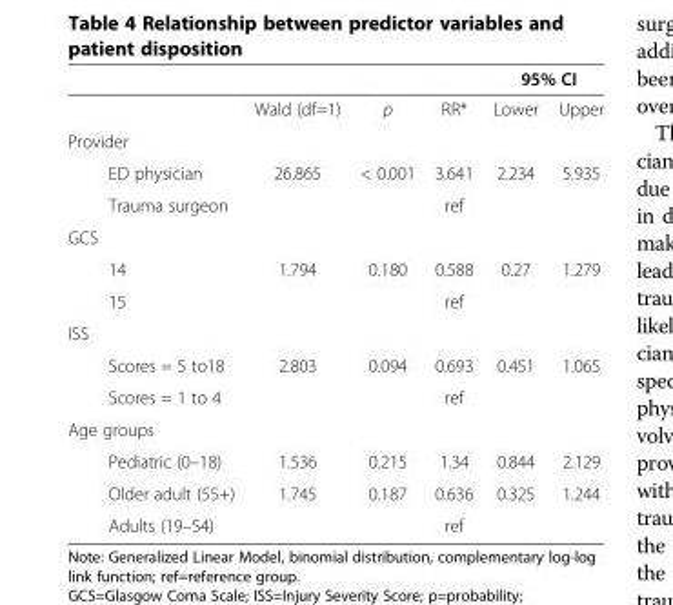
<table><thead><tr><td rowspan="2"></td><td rowspan="2"></td><td rowspan="2">Wald (df=1)</td><td rowspan="2">p</td><td rowspan="2">RR*</td><td colspan="2">95% CI</td></tr><tr><td>Lower</td><td>Upper</td></tr></thead><tbody><tr><td colspan="7">Provider</td></tr><tr><td></td><td>ED physician</td><td>26.865</td><td>&lt; 0.001</td><td>3.641</td><td>2.234</td><td>5.935</td></tr><tr><td></td><td>Trauma surgeon</td><td></td><td></td><td>ref</td><td></td><td></td></tr><tr><td colspan="7">GCS</td></tr><tr><td></td><td>14</td><td>1.794</td><td>0.180</td><td>0.588</td><td>0.27</td><td>1.279</td></tr><tr><td></td><td>15</td><td></td><td></td><td>ref</td><td></td><td></td></tr><tr><td colspan="7">ISS</td></tr><tr><td></td><td>Scores = 5 to18</td><td>2.803</td><td>0.094</td><td>0.693</td><td>0.451</td><td>1.065</td></tr><tr><td></td><td>Scores = 1 to 4</td><td></td><td></td><td>ref</td><td></td><td></td></tr><tr><td colspan="7">Age groups</td></tr><tr><td></td><td>Pediatric (0–18)</td><td>1.536</td><td>0.215</td><td>1.34</td><td>0.844</td><td>2.129</td></tr><tr><td></td><td>Older adult (55+)</td><td>1.745</td><td>0.187</td><td>0.636</td><td>0.325</td><td>1.244</td></tr><tr><td></td><td>Adults (19–54)</td><td></td><td></td><td>ref</td><td></td><td></td></tr></tbody></table>